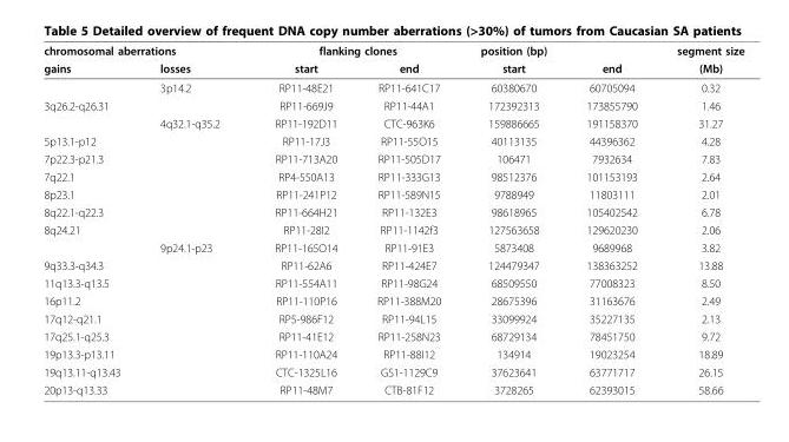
<table><thead><tr><td colspan="2">chromosomal aberrations</td><td colspan="2">flanking clones</td><td rowspan="2">position (bp) start</td><td rowspan="2">end</td><td rowspan="2">segment size (Mb)</td></tr><tr><td>gains</td><td>losses</td><td>start</td><td>end</td></tr></thead><tbody><tr><td></td><td>3p14.2</td><td>RP11-48E21</td><td>RP11-641C17</td><td>60380670</td><td>60705094</td><td>0.32</td></tr><tr><td rowspan="2">3q26.2-q26.31</td><td></td><td>RP11-669J9</td><td>RP11-44A1</td><td>172392313</td><td>173855790</td><td>1.46</td></tr><tr><td>4q32.1-q35.2</td><td>RP11-192D11</td><td>CTC-963K6</td><td>159886665</td><td>191158370</td><td>31.27</td></tr><tr><td>5p13.1-p12</td><td></td><td>RP11-17J3</td><td>RP11-55O15</td><td>40113135</td><td>44396362</td><td>4.28</td></tr><tr><td>7p22.3-p21.3</td><td></td><td>RP11-713A20</td><td>RP11-505D17</td><td>106471</td><td>7932634</td><td>7.83</td></tr><tr><td>7q22.1</td><td></td><td>RP4-550A13</td><td>RP11-333G13</td><td>98512376</td><td>101153193</td><td>2.64</td></tr><tr><td>8p23.1</td><td></td><td>RP11-241P12</td><td>RP11-589N15</td><td>9788949</td><td>11803111</td><td>2.01</td></tr><tr><td>8q22.1-q22.3</td><td></td><td>RP11-664H21</td><td>RP11-132E3</td><td>98618965</td><td>105402542</td><td>6.78</td></tr><tr><td rowspan="2">8q24.21</td><td></td><td>RP11-28I2</td><td>RP11-1142f3</td><td>127563658</td><td>129620230</td><td>2.06</td></tr><tr><td>9p24.1-p23</td><td>RP11-165O14</td><td>RP11-91E3</td><td>5873408</td><td>9689968</td><td>3.82</td></tr><tr><td>9q33.3-q34.3</td><td></td><td>RP11-62A6</td><td>RP11-424E7</td><td>124479347</td><td>138363252</td><td>13.88</td></tr><tr><td>11q13.3-q13.5</td><td></td><td>RP11-554A11</td><td>RP11-98G24</td><td>68509550</td><td>77008323</td><td>8.50</td></tr><tr><td>16p11.2</td><td></td><td>RP11-110P16</td><td>RP11-388M20</td><td>28675396</td><td>31163676</td><td>2.49</td></tr><tr><td>17q12-q21.1</td><td></td><td>RP5-986F12</td><td>RP11-94L15</td><td>33099924</td><td>35227135</td><td>2.13</td></tr><tr><td>17q25.1-q25.3</td><td></td><td>RP11-41E12</td><td>RP11-258N23</td><td>68729134</td><td>78451750</td><td>9.72</td></tr><tr><td>19p13.3-p13.11</td><td></td><td>RP11-110A24</td><td>RP11-88I12</td><td>134914</td><td>19023254</td><td>18.89</td></tr><tr><td>19q13.11-q13.43</td><td></td><td>CTC-1325L16</td><td>GS1-1129C9</td><td>37623641</td><td>63771717</td><td>26.15</td></tr><tr><td>20p13-q13.33</td><td></td><td>RP11-48M7</td><td>CTB-81F12</td><td>3728265</td><td>62393015</td><td>58.66</td></tr></tbody></table>